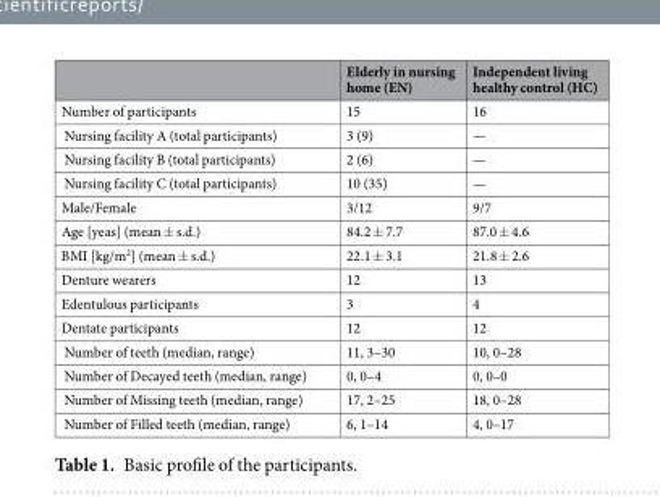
<table><thead><tr><td></td><td>Elderly in nursing home (EN)</td><td>Independent living healthy control (HC)</td></tr></thead><tbody><tr><td>Number of participants</td><td>15</td><td>16</td></tr><tr><td>Nursing facility A (total participants)</td><td>3 (9)</td><td>—</td></tr><tr><td>Nursing facility B (total participants)</td><td>2 (6)</td><td>—</td></tr><tr><td>Nursing facility C (total participants)</td><td>10 (35)</td><td>—</td></tr><tr><td>Male/Female</td><td>3/12</td><td>9/7</td></tr><tr><td>Age [yeas] (mean ± s.d.)</td><td>84.2 ± 7.7</td><td>87.0 ± 4.6</td></tr><tr><td>BMI [kg/m<sup>2</sup>] (mean ± s.d.)</td><td>22.1 ± 3.1</td><td>21.8 ± 2.6</td></tr><tr><td>Denture wearers</td><td>12</td><td>13</td></tr><tr><td>Edentulous participants</td><td>3</td><td>4</td></tr><tr><td>Dentate participants</td><td>12</td><td>12</td></tr><tr><td>Number of teeth (median, range)</td><td>11, 3–30</td><td>10, 0–28</td></tr><tr><td>Number of Decayed teeth (median, range)</td><td>0, 0–4</td><td>0, 0–0</td></tr><tr><td>Number of Missing teeth (median, range)</td><td>17, 2–25</td><td>18, 0–28</td></tr><tr><td>Number of Filled teeth (median, range)</td><td>6, 1–14</td><td>4, 0–17</td></tr></tbody></table>